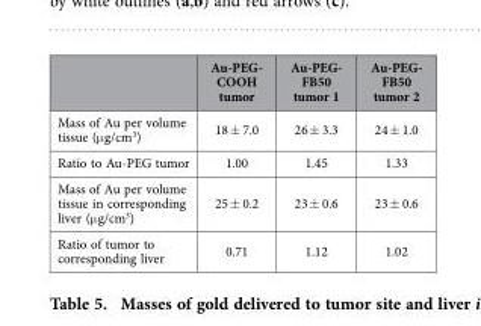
<table><thead><tr><td></td><td>Au-PEG- COOH tumor</td><td>Au-PEG- FB50 tumor 1</td><td>Au-PEG- FB50 tumor 2</td></tr></thead><tbody><tr><td>Mass of Au per volume tissue (μ g/cm<sup>3</sup>)</td><td>18 ± 7.0</td><td>26 ± 3.3</td><td>24 ± 1.0</td></tr><tr><td>Ratio to Au-PEG tumor</td><td>1.00</td><td>1.45</td><td>1.33</td></tr><tr><td>Mass of Au per volume tissue in corresponding liver (μ g/cm<sup>3</sup>)</td><td>25 ± 0.2</td><td>23 ± 0.6</td><td>23 ± 0.6</td></tr><tr><td>Ratio of tumor to corresponding liver</td><td>0.71</td><td>1.12</td><td>1.02</td></tr></tbody></table>